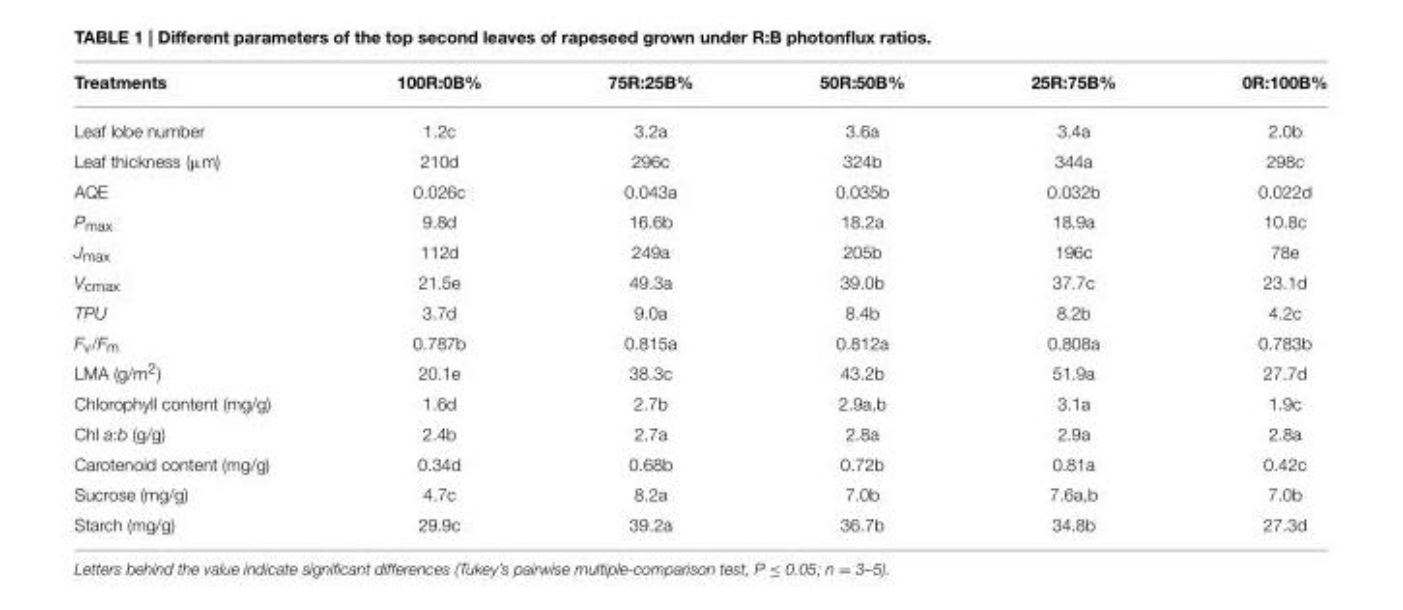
<table><thead><tr><td>Treatments</td><td>100R:0B%</td><td>75R:25B%</td><td>50R:50B%</td><td>25R:75B%</td><td>0R:100B%</td></tr></thead><tbody><tr><td>Leaf lobe number</td><td>1.2c</td><td>3.2a</td><td>3.6a</td><td>3.4a</td><td>2.0b</td></tr><tr><td>Leaf thickness (µm)</td><td>210d</td><td>296c</td><td>324b</td><td>344a</td><td>298c</td></tr><tr><td>AQE</td><td>0.026c</td><td>0.043a</td><td>0.035b</td><td>0.032b</td><td>0.022d</td></tr><tr><td>Pmax</td><td>9.8d</td><td>16.6b</td><td>18.2a</td><td>18.9a</td><td>10.8c</td></tr><tr><td>Jmax</td><td>112d</td><td>249a</td><td>205b</td><td>196c</td><td>78e</td></tr><tr><td>Vcmax</td><td>21.5e</td><td>49.3a</td><td>39.0b</td><td>37.7c</td><td>23.1d</td></tr><tr><td>TPU</td><td>3.7d</td><td>9.0a</td><td>8.4b</td><td>8.2b</td><td>4.2c</td></tr><tr><td>Fv/Fm</td><td>0.787b</td><td>0.815a</td><td>0.812a</td><td>0.808a</td><td>0.783b</td></tr><tr><td>LMA (g/m<sup>2</sup>)</td><td>20.1e</td><td>38.3c</td><td>43.2b</td><td>51.9a</td><td>27.7d</td></tr><tr><td>Chlorophyll content (mg/g)</td><td>1.6d</td><td>2.7b</td><td>2.9a,b</td><td>3.1a</td><td>1.9c</td></tr><tr><td>Chl a:b (g/g)</td><td>2.4b</td><td>2.7a</td><td>2.8a</td><td>2.9a</td><td>2.8a</td></tr><tr><td>Carotenoid content (mg/g)</td><td>0.34d</td><td>0.68b</td><td>0.72b</td><td>0.81a</td><td>0.42c</td></tr><tr><td>Sucrose (mg/g)</td><td>4.7c</td><td>8.2a</td><td>7.0b</td><td>7.6a,b</td><td>7.0b</td></tr><tr><td>Starch (mg/g)</td><td>29.9c</td><td>39.2a</td><td>36.7b</td><td>34.8b</td><td>27.3d</td></tr></tbody></table>